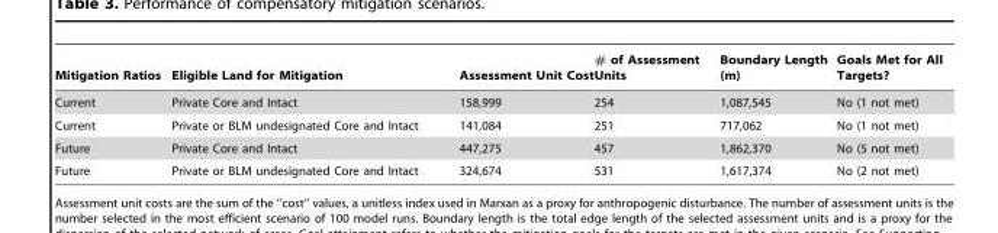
<table><thead><tr><td>Mitigation Ratios</td><td>Eligible Land for Mitigation</td><td>Assessment Unit Cost</td><td># of Assessment Units</td><td>Boundary Length (m)</td><td>Goals Met for All Targets?</td></tr></thead><tbody><tr><td>Current</td><td>Private Core and Intact</td><td>158,999</td><td>254</td><td>1,087,545</td><td>No (1 not met)</td></tr><tr><td>Current</td><td>Private or BLM undesignated Core and Intact</td><td>141,084</td><td>251</td><td>717,062</td><td>No (1 not met)</td></tr><tr><td>Future</td><td>Private Core and Intact</td><td>447,275</td><td>457</td><td>1,862,370</td><td>No (5 not met)</td></tr><tr><td>Future</td><td>Private or BLM undesignated Core and Intact</td><td>324,674</td><td>531</td><td>1,617,374</td><td>No (2 not met)</td></tr></tbody></table>